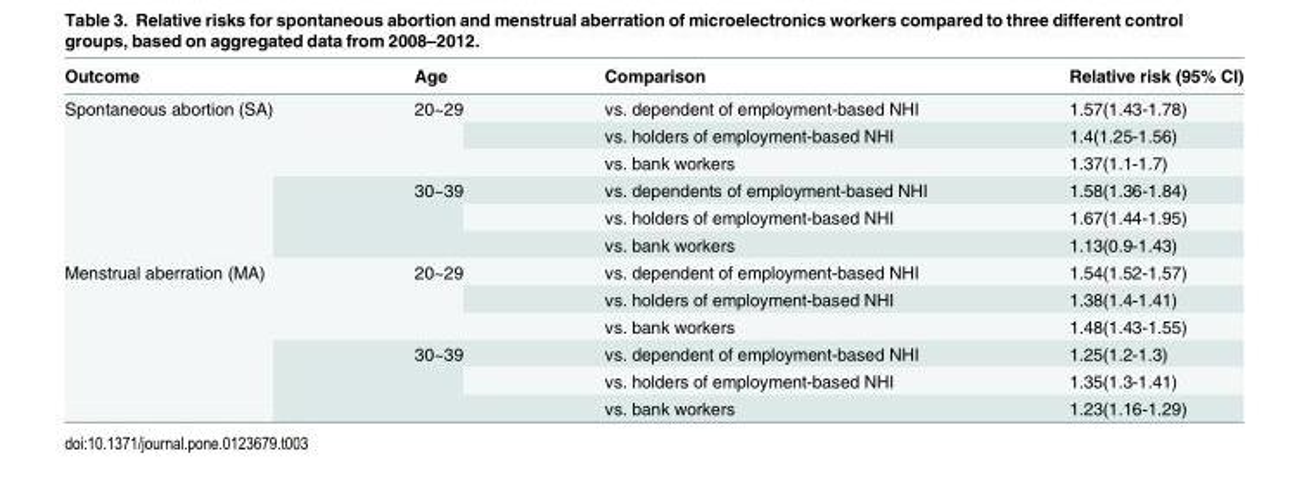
<table><thead><tr><td>Outcome</td><td>Age</td><td>Comparison</td><td>Relative risk (95% CI)</td></tr></thead><tbody><tr><td rowspan="6">Spontaneous abortion (SA)</td><td rowspan="3">20~29</td><td>vs. dependent of employment-based NHI</td><td>1.57(1.43-1.78)</td></tr><tr><td>vs. holders of employment-based NHI</td><td>1.4(1.25-1.56)</td></tr><tr><td>vs. bank workers</td><td>1.37(1.1-1.7)</td></tr><tr><td rowspan="3">30~39</td><td>vs. dependents of employment-based NHI</td><td>1.58(1.36-1.84)</td></tr><tr><td>vs. holders of employment-based NHI</td><td>1.67(1.44-1.95)</td></tr><tr><td>vs. bank workers</td><td>1.13(0.9-1.43)</td></tr><tr><td rowspan="6">Menstrual aberration (MA)</td><td rowspan="3">20~29</td><td>vs. dependent of employment-based NHI</td><td>1.54(1.52-1.57)</td></tr><tr><td>vs. holders of employment-based NHI</td><td>1.38(1.4-1.41)</td></tr><tr><td>vs. bank workers</td><td>1.48(1.43-1.55)</td></tr><tr><td rowspan="3">30~39</td><td>vs. dependent of employment-based NHI</td><td>1.25(1.2-1.3)</td></tr><tr><td>vs. holders of employment-based NHI</td><td>1.35(1.3-1.41)</td></tr><tr><td>vs. bank workers</td><td>1.23(1.16-1.29)</td></tr></tbody></table>